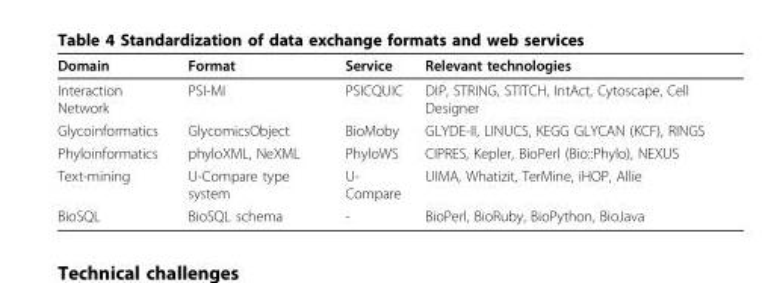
<table><thead><tr><td>Domain</td><td>Format</td><td>Service</td><td>Relevant technologies</td></tr></thead><tbody><tr><td>Interaction Network</td><td>PSI-MI</td><td>PSICQUIC</td><td>DIP, STRING, STITCH, IntAct, Cytoscape, Cell Designer</td></tr><tr><td>Glycoinformatics</td><td>GlycomicsObject</td><td>BioMoby</td><td>GLYDE-II, LINUCS, KEGG GLYCAN (KCF), RINGS</td></tr><tr><td>Phyloinformatics</td><td>phyloXML, NeXML</td><td>PhyloWS</td><td>CIPRES, Kepler, BioPerl (Bio::Phylo), NEXUS</td></tr><tr><td>Text-mining</td><td>U-Compare type system</td><td>U- Compare</td><td>UIMA, Whatizit, TerMine, iHOP, Allie</td></tr><tr><td>BioSQL</td><td>BioSQL schema</td><td>-</td><td>BioPerl, BioRuby, BioPython, BioJava</td></tr></tbody></table>